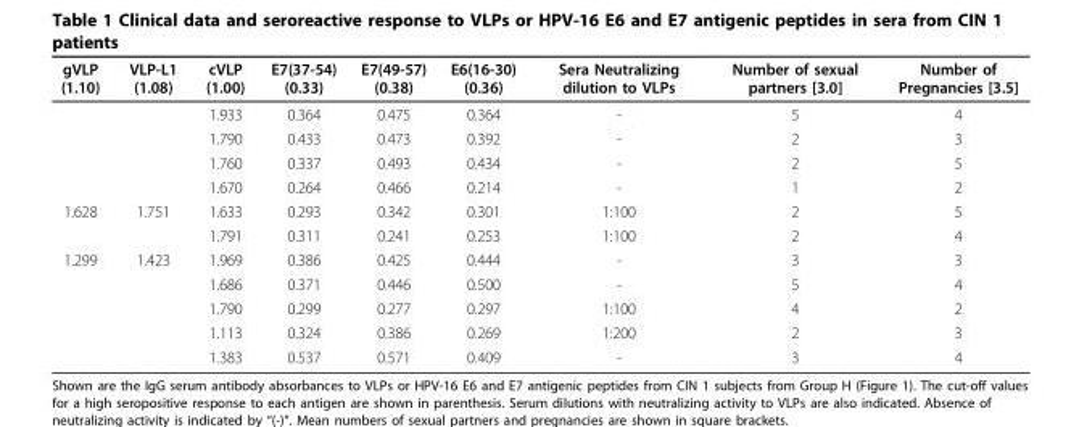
<table><thead><tr><td>gVLP (1.10)</td><td>VLP-L1 (1.08)</td><td>cVLP (1.00)</td><td>E7(37-54) (0.33)</td><td>E7(49-57) (0.38)</td><td>E6(16-30) (0.36)</td><td>Sera Neutralizing dilution to VLPs</td><td>Number of sexual partners [3.0]</td><td>Number of Pregnancies [3.5]</td></tr></thead><tbody><tr><td></td><td></td><td>1.933</td><td>0.364</td><td>0.475</td><td>0.364</td><td>-</td><td>5</td><td>4</td></tr><tr><td></td><td></td><td>1.790</td><td>0.433</td><td>0.473</td><td>0.392</td><td>-</td><td>2</td><td>3</td></tr><tr><td></td><td></td><td>1.760</td><td>0.337</td><td>0.493</td><td>0.434</td><td>-</td><td>2</td><td>5</td></tr><tr><td></td><td></td><td>1.670</td><td>0.264</td><td>0.466</td><td>0.214</td><td>-</td><td>1</td><td>2</td></tr><tr><td rowspan="2">1.628</td><td>1.751</td><td>1.633</td><td>0.293</td><td>0.342</td><td>0.301</td><td>1:100</td><td>2</td><td>5</td></tr><tr><td></td><td>1.791</td><td>0.311</td><td>0.241</td><td>0.253</td><td>1:100</td><td>2</td><td>4</td></tr><tr><td rowspan="5">1.299</td><td>1.423</td><td>1.969</td><td>0.386</td><td>0.425</td><td>0.444</td><td>-</td><td>3</td><td>3</td></tr><tr><td></td><td>1.686</td><td>0.371</td><td>0.446</td><td>0.500</td><td>-</td><td>5</td><td>4</td></tr><tr><td></td><td>1.790</td><td>0.299</td><td>0.277</td><td>0.297</td><td>1:100</td><td>4</td><td>2</td></tr><tr><td></td><td>1.113</td><td>0.324</td><td>0.386</td><td>0.269</td><td>1:200</td><td>2</td><td>3</td></tr><tr><td></td><td>1.383</td><td>0.537</td><td>0.571</td><td>0.409</td><td>-</td><td>3</td><td>4</td></tr></tbody></table>